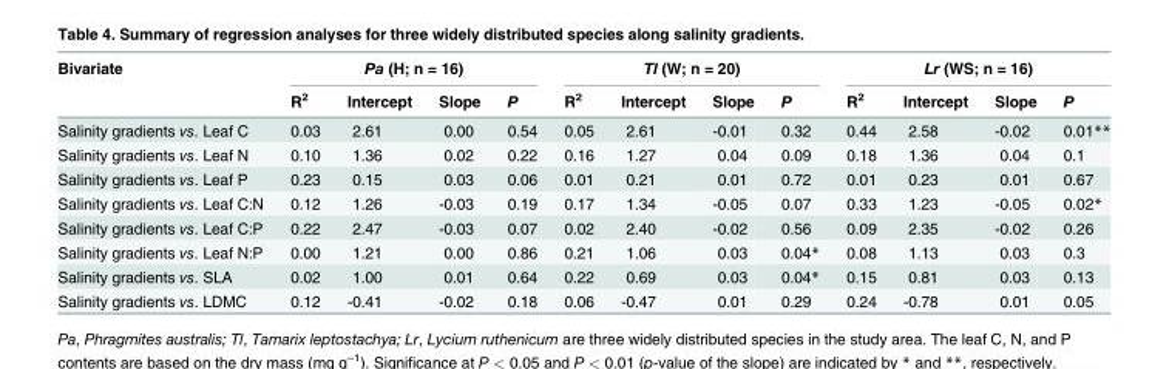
<table><thead><tr><td rowspan="2">Bivariate</td><td colspan="4">Pa (H; n = 16)</td><td colspan="4">Tl (W; n = 20)</td><td colspan="4">Lr (WS; n = 16)</td></tr><tr><td>R<sup>2</sup></td><td>Intercept</td><td>Slope</td><td>P</td><td>R<sup>2</sup></td><td>Intercept</td><td>Slope</td><td>P</td><td>R<sup>2</sup></td><td>Intercept</td><td>Slope</td><td>P</td></tr></thead><tbody><tr><td>Salinity gradients vs. Leaf C</td><td>0.03</td><td>2.61</td><td>0.00</td><td>0.54</td><td>0.05</td><td>2.61</td><td>-0.01</td><td>0.32</td><td>0.44</td><td>2.58</td><td>-0.02</td><td>0.01**</td></tr><tr><td>Salinity gradients vs. Leaf N</td><td>0.10</td><td>1.36</td><td>0.02</td><td>0.22</td><td>0.16</td><td>1.27</td><td>0.04</td><td>0.09</td><td>0.18</td><td>1.36</td><td>0.04</td><td>0.1</td></tr><tr><td>Salinity gradients vs. Leaf P</td><td>0.23</td><td>0.15</td><td>0.03</td><td>0.06</td><td>0.01</td><td>0.21</td><td>0.01</td><td>0.72</td><td>0.01</td><td>0.23</td><td>0.01</td><td>0.67</td></tr><tr><td>Salinity gradients vs. Leaf C:N</td><td>0.12</td><td>1.26</td><td>-0.03</td><td>0.19</td><td>0.17</td><td>1.34</td><td>-0.05</td><td>0.07</td><td>0.33</td><td>1.23</td><td>-0.05</td><td>0.02*</td></tr><tr><td>Salinity gradients vs. Leaf C:P</td><td>0.22</td><td>2.47</td><td>-0.03</td><td>0.07</td><td>0.02</td><td>2.40</td><td>-0.02</td><td>0.56</td><td>0.09</td><td>2.35</td><td>-0.02</td><td>0.26</td></tr><tr><td>Salinity gradients vs. Leaf N:P</td><td>0.00</td><td>1.21</td><td>0.00</td><td>0.86</td><td>0.21</td><td>1.06</td><td>0.03</td><td>0.04*</td><td>0.08</td><td>1.13</td><td>0.03</td><td>0.3</td></tr><tr><td>Salinity gradients vs. SLA</td><td>0.02</td><td>1.00</td><td>0.01</td><td>0.64</td><td>0.22</td><td>0.69</td><td>0.03</td><td>0.04*</td><td>0.15</td><td>0.81</td><td>0.03</td><td>0.13</td></tr><tr><td>Salinity gradients vs. LDMC</td><td>0.12</td><td>-0.41</td><td>-0.02</td><td>0.18</td><td>0.06</td><td>-0.47</td><td>0.01</td><td>0.29</td><td>0.24</td><td>-0.78</td><td>0.01</td><td>0.05</td></tr></tbody></table>